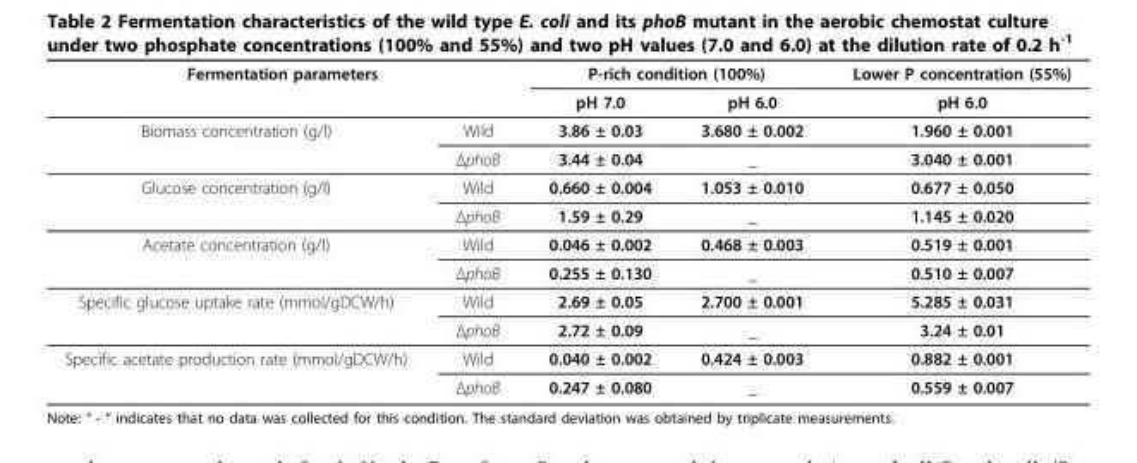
<table><thead><tr><td colspan="2">Fermentation parameters</td><td colspan="2">P-rich condition (100%)</td><td rowspan="2">Lower P concentration (55%) pH 6.0</td></tr><tr><td></td><td></td><td>pH 7.0</td><td>pH 6.0</td></tr></thead><tbody><tr><td rowspan="2">Biomass concentration (g/l)</td><td>Wild</td><td>3.86 ± 0.03</td><td>3.680 ± 0.002</td><td>1.960 ± 0.001</td></tr><tr><td>ΔphoB</td><td>3.44 ± 0.04</td><td>_</td><td>3.040 ± 0.001</td></tr><tr><td rowspan="2">Glucose concentration (g/l)</td><td>Wild</td><td>0.660 ± 0.004</td><td>1.053 ± 0.010</td><td>0.677 ± 0.050</td></tr><tr><td>ΔphoB</td><td>1.59 ± 0.29</td><td>_</td><td>1.145 ± 0.020</td></tr><tr><td rowspan="2">Acetate concentration (g/l)</td><td>Wild</td><td>0.046 ± 0.002</td><td>0.468 ± 0.003</td><td>0.519 ± 0.001</td></tr><tr><td>ΔphoB</td><td>0.255 ± 0.130</td><td>_</td><td>0.510 ± 0.007</td></tr><tr><td rowspan="2">Specific glucose uptake rate (mmol/gDCW/h)</td><td>Wild</td><td>2.69 ± 0.05</td><td>2.700 ± 0.001</td><td>5.285 ± 0.031</td></tr><tr><td>ΔphoB</td><td>2.72 ± 0.09</td><td>_</td><td>3.24 ± 0.01</td></tr><tr><td rowspan="2">Specific acetate production rate (mmol/gDCW/h)</td><td>Wild</td><td>0.040 ± 0.002</td><td>0.424 ± 0.003</td><td>0.882 ± 0.001</td></tr><tr><td>ΔphoB</td><td>0.247 ± 0.080</td><td>_</td><td>0.559 ± 0.007</td></tr></tbody></table>